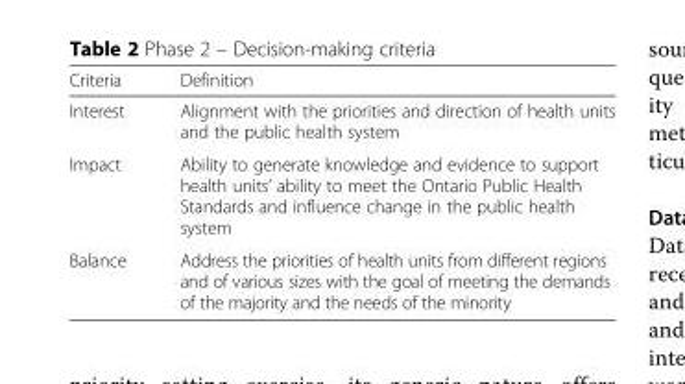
<table><thead><tr><td>Criteria</td><td>Definition</td></tr></thead><tbody><tr><td>Interest</td><td>Alignment with the priorities and direction of health units and the public health system</td></tr><tr><td>Impact</td><td>Ability to generate knowledge and evidence to support health units’ ability to meet the Ontario Public Health Standards and influence change in the public health system</td></tr><tr><td>Balance</td><td>Address the priorities of health units from different regions and of various sizes with the goal of meeting the demands of the majority and the needs of the minority</td></tr></tbody></table>